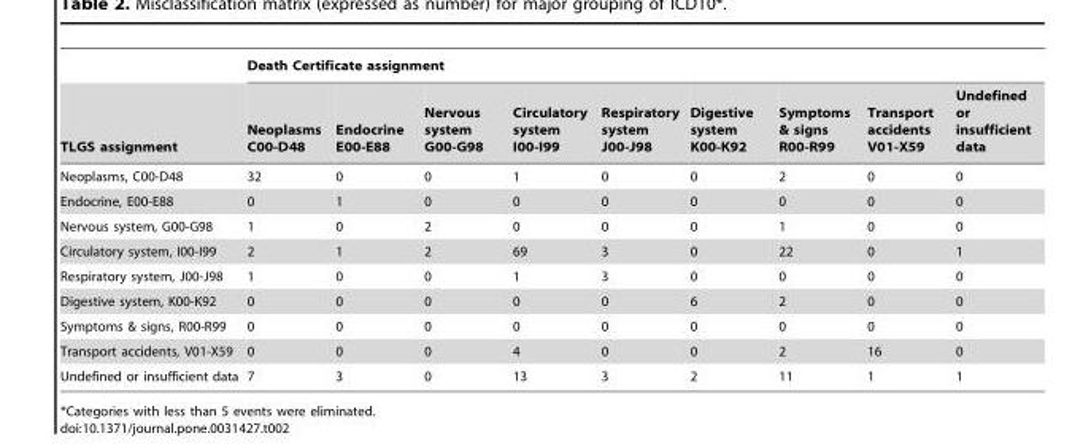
<table><thead><tr><td rowspan="2">TLGS assignment</td><td colspan="9">Death Certificate assignment</td></tr><tr><td>Neoplasms C00-D48</td><td>Endocrine E00-E88</td><td>Nervous system G00-G98</td><td>Circulatory system I00-I99</td><td>Respiratory system J00-J98</td><td>Digestive system K00-K92</td><td>Symptoms &amp; signs R00-R99</td><td>Transport accidents V01-X59</td><td>Undefined or insufficient data</td></tr></thead><tbody><tr><td>Neoplasms, C00-D48</td><td>32</td><td>0</td><td>0</td><td>1</td><td>0</td><td>0</td><td>2</td><td>0</td><td>0</td></tr><tr><td>Endocrine, E00-E88</td><td>0</td><td>1</td><td>0</td><td>0</td><td>0</td><td>0</td><td>0</td><td>0</td><td>0</td></tr><tr><td>Nervous system, G00-G98</td><td>1</td><td>0</td><td>2</td><td>0</td><td>0</td><td>0</td><td>1</td><td>0</td><td>0</td></tr><tr><td>Circulatory system, I00-I99</td><td>2</td><td>1</td><td>2</td><td>69</td><td>3</td><td>0</td><td>22</td><td>0</td><td>1</td></tr><tr><td>Respiratory system, J00-J98</td><td>1</td><td>0</td><td>0</td><td>1</td><td>3</td><td>0</td><td>0</td><td>0</td><td>0</td></tr><tr><td>Digestive system, K00-K92</td><td>0</td><td>0</td><td>0</td><td>0</td><td>0</td><td>6</td><td>2</td><td>0</td><td>0</td></tr><tr><td>Symptoms &amp; signs, R00-R99</td><td>0</td><td>0</td><td>0</td><td>0</td><td>0</td><td>0</td><td>0</td><td>0</td><td>0</td></tr><tr><td>Transport accidents, V01-X59</td><td>0</td><td>0</td><td>0</td><td>4</td><td>0</td><td>0</td><td>2</td><td>16</td><td>0</td></tr><tr><td>Undefined or insufficient data</td><td>7</td><td>3</td><td>0</td><td>13</td><td>3</td><td>2</td><td>11</td><td>1</td><td>1</td></tr></tbody></table>